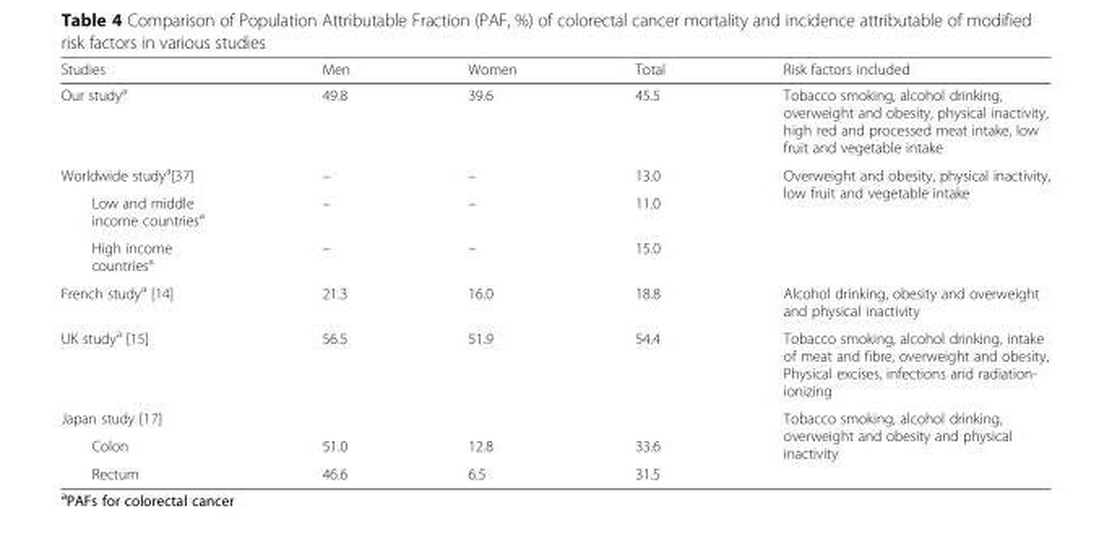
<table><thead><tr><td>Studies</td><td>Men</td><td>Women</td><td>Total</td><td>Risk factors included</td></tr></thead><tbody><tr><td>Our study<sup>a</sup></td><td>49.8</td><td>39.6</td><td>45.5</td><td>Tobacco smoking, alcohol drinking, overweight and obesity, physical inactivity, high red and processed meat intake, low fruit and vegetable intake</td></tr><tr><td>Worldwide study<sup>a</sup>[37]</td><td>–</td><td>–</td><td>13.0</td><td rowspan="3">Overweight and obesity, physical inactivity, low fruit and vegetable intake</td></tr><tr><td>Low and middle income countries<sup>a</sup></td><td>–</td><td>–</td><td>11.0</td></tr><tr><td>High income countries<sup>a</sup></td><td>–</td><td>–</td><td>15.0</td></tr><tr><td>French study<sup>a</sup> [14]</td><td>21.3</td><td>16.0</td><td>18.8</td><td>Alcohol drinking, obesity and overweight and physical inactivity</td></tr><tr><td>UK study<sup>a</sup> [15]</td><td>56.5</td><td>51.9</td><td>54.4</td><td>Tobacco smoking, alcohol drinking, intake of meat and fibre, overweight and obesity, Physical excises, infections and radiation- ionizing</td></tr><tr><td colspan="4">Japan study [17]</td><td rowspan="3">Tobacco smoking, alcohol drinking, overweight and obesity and physical inactivity</td></tr><tr><td>Colon</td><td>51.0</td><td>12.8</td><td>33.6</td></tr><tr><td>Rectum</td><td>46.6</td><td>6.5</td><td>31.5</td></tr></tbody></table>